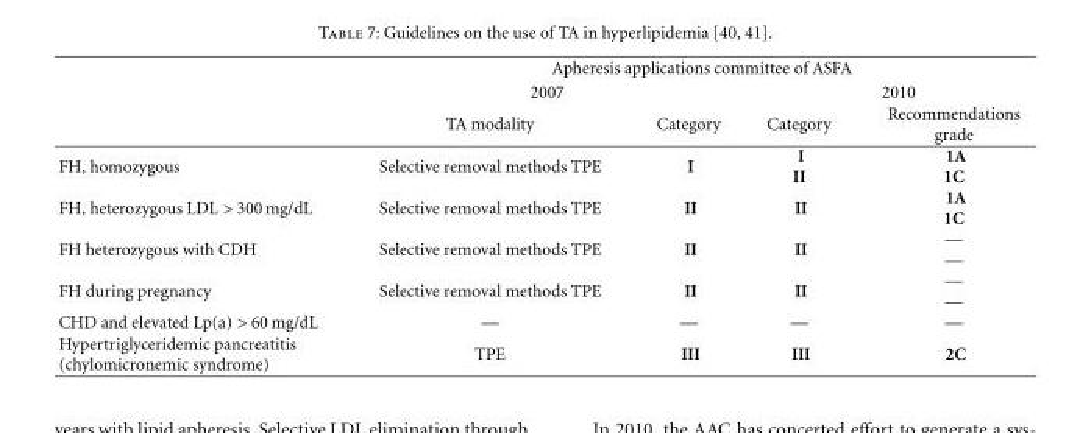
<table><thead><tr><td rowspan="3"></td><td colspan="4">Apheresis applications committee of ASFA</td></tr><tr><td colspan="2">2007</td><td colspan="2">2010</td></tr><tr><td>TA modality</td><td>Category</td><td>Category</td><td>Recommendations grade</td></tr></thead><tbody><tr><td>FH, homozygous</td><td>Selective removal methods TPE</td><td>I</td><td>I II</td><td>1A 1C</td></tr><tr><td>FH, heterozygous LDL &gt; 300 mg/dL</td><td>Selective removal methods TPE</td><td>II</td><td>II</td><td>1A 1C</td></tr><tr><td>FH heterozygous with CDH</td><td>Selective removal methods TPE</td><td>II</td><td>II</td><td>— —</td></tr><tr><td>FH during pregnancy</td><td>Selective removal methods TPE</td><td>II</td><td>II</td><td>— —</td></tr><tr><td>CHD and elevated Lp(a) &gt; 60 mg/dL</td><td>—</td><td>—</td><td>—</td><td>—</td></tr><tr><td>Hypertriglyceridemic pancreatitis (chylomicronemic syndrome)</td><td>TPE</td><td>III</td><td>III</td><td>2C</td></tr></tbody></table>